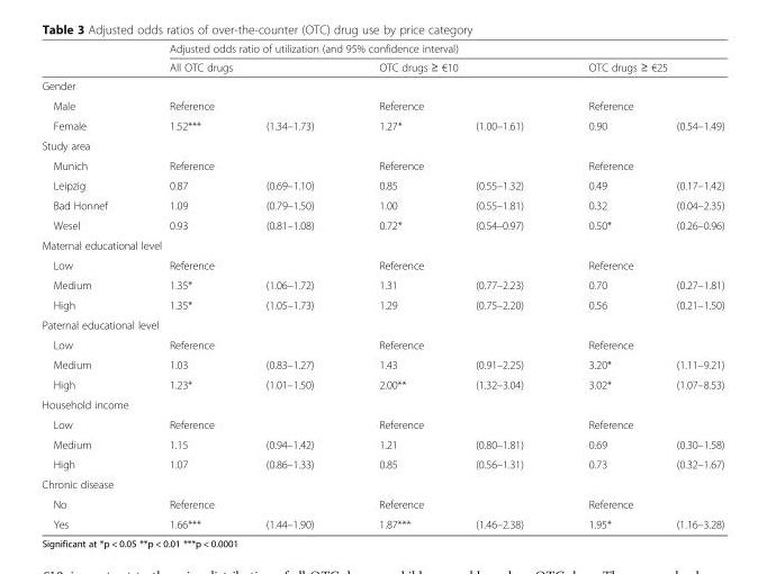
<table><thead><tr><td rowspan="2"></td><td colspan="6">Adjusted odds ratio of utilization (and 95% confidence interval)</td></tr><tr><td colspan="2">All OTC drugs</td><td colspan="2">OTC drugs ≥ €10</td><td colspan="2">OTC drugs ≥ €25</td></tr><tr><td colspan="7">Gender</td></tr><tr><td rowspan="2">Male Female</td><td colspan="2">Reference</td><td colspan="2">Reference</td><td colspan="2">Reference</td></tr><tr><td>1.52***</td><td>(1.34–1.73)</td><td>1.27*</td><td>(1.00–1.61)</td><td>0.90</td><td>(0.54–1.49)</td></tr></thead><tbody><tr><td colspan="7">Study area</td></tr><tr><td>Munich</td><td colspan="2">Reference</td><td colspan="2">Reference</td><td colspan="2">Reference</td></tr><tr><td>Leipzig</td><td>0.87</td><td>(0.69–1.10)</td><td>0.85</td><td>(0.55–1.32)</td><td>0.49</td><td>(0.17–1.42)</td></tr><tr><td>Bad Honnef</td><td>1.09</td><td>(0.79–1.50)</td><td>1.00</td><td>(0.55–1.81)</td><td>0.32</td><td>(0.04–2.35)</td></tr><tr><td>Wesel</td><td>0.93</td><td>(0.81–1.08)</td><td>0.72*</td><td>(0.54–0.97)</td><td>0.50*</td><td>(0.26–0.96)</td></tr><tr><td colspan="7">Maternal educational level</td></tr><tr><td>Low</td><td colspan="2">Reference</td><td colspan="2">Reference</td><td colspan="2">Reference</td></tr><tr><td>Medium</td><td>1.35*</td><td>(1.06–1.72)</td><td>1.31</td><td>(0.77–2.23)</td><td>0.70</td><td>(0.27–1.81)</td></tr><tr><td>High</td><td>1.35*</td><td>(1.05–1.73)</td><td>1.29</td><td>(0.75–2.20)</td><td>0.56</td><td>(0.21–1.50)</td></tr><tr><td colspan="7">Paternal educational level</td></tr><tr><td>Low</td><td colspan="2">Reference</td><td colspan="2">Reference</td><td colspan="2">Reference</td></tr><tr><td>Medium</td><td>1.03</td><td>(0.83–1.27)</td><td>1.43</td><td>(0.91–2.25)</td><td>3.20*</td><td>(1.11–9.21)</td></tr><tr><td>High</td><td>1.23*</td><td>(1.01–1.50)</td><td>2.00**</td><td>(1.32–3.04)</td><td>3.02*</td><td>(1.07–8.53)</td></tr><tr><td colspan="7">Household income</td></tr><tr><td>Low</td><td colspan="2">Reference</td><td colspan="2">Reference</td><td colspan="2">Reference</td></tr><tr><td>Medium</td><td>1.15</td><td>(0.94–1.42)</td><td>1.21</td><td>(0.80–1.81)</td><td>0.69</td><td>(0.30–1.58)</td></tr><tr><td>High</td><td>1.07</td><td>(0.86–1.33)</td><td>0.85</td><td>(0.56–1.31)</td><td>0.73</td><td>(0.32–1.67)</td></tr><tr><td colspan="7">Chronic disease</td></tr><tr><td>No</td><td colspan="2">Reference</td><td colspan="2">Reference</td><td colspan="2">Reference</td></tr><tr><td>Yes</td><td>1.66***</td><td>(1.44–1.90)</td><td>1.87***</td><td>(1.46–2.38)</td><td>1.95*</td><td>(1.16–3.28)</td></tr></tbody></table>